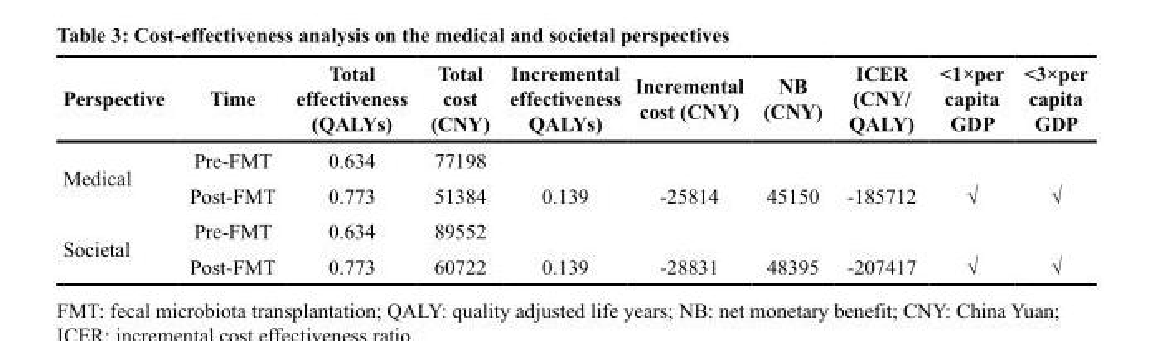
<table><thead><tr><td>Perspective</td><td>Time</td><td>Total effectiveness (QALYs)</td><td>Total cost (CNY)</td><td>Incremental effectiveness QALYs)</td><td>Incremental cost (CNY)</td><td>NB (CNY)</td><td>ICER (CNY/ QALY)</td><td>&lt;1×per capita GDP</td><td>&lt;3×per capita GDP</td></tr></thead><tbody><tr><td rowspan="2">Medical</td><td>Pre-FMT</td><td>0.634</td><td>77198</td><td></td><td></td><td></td><td></td><td></td><td></td></tr><tr><td>Post-FMT</td><td>0.773</td><td>51384</td><td>0.139</td><td>-25814</td><td>45150</td><td>-185712</td><td>√</td><td>√</td></tr><tr><td rowspan="2">Societal</td><td>Pre-FMT</td><td>0.634</td><td>89552</td><td></td><td></td><td></td><td></td><td></td><td></td></tr><tr><td>Post-FMT</td><td>0.773</td><td>60722</td><td>0.139</td><td>-28831</td><td>48395</td><td>-207417</td><td>√</td><td>√</td></tr></tbody></table>